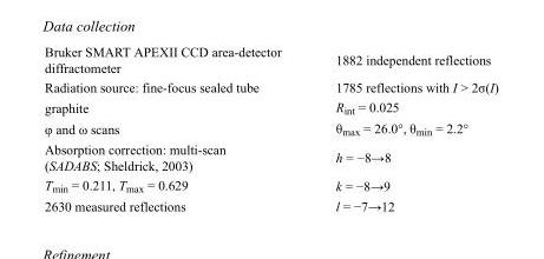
<table><tbody><tr><td>Bruker SMART APEXII CCD area-detector diffractometer</td><td>1882 independent reflections</td></tr><tr><td>Radiation source: fine-focus sealed tube</td><td>1785 reflections with I &gt; 2σ(I)</td></tr><tr><td>graphite</td><td>R<sub>int</sub> = 0.025</td></tr><tr><td>φ and ω scans</td><td>θ<sub>max</sub> = 26.0°, θ<sub>min</sub> = 2.2°</td></tr><tr><td>Absorption correction: multi-scan (SADABS; Sheldrick, 2003)</td><td>h = −8→8</td></tr><tr><td>T<sub>min</sub> = 0.211, T<sub>max</sub> = 0.629</td><td>k = −8→9</td></tr><tr><td>2630 measured reflections</td><td>l = −7→12</td></tr></tbody></table>